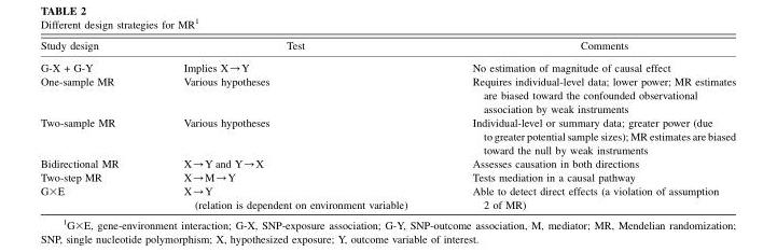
<table><thead><tr><td>Study design</td><td>Test</td><td>Comments</td></tr></thead><tbody><tr><td>G-X + G-Y</td><td>Implies X→Y</td><td>No estimation of magnitude of causal effect</td></tr><tr><td>One-sample MR</td><td>Various hypotheses</td><td>Requires individual-level data; lower power; MR estimates are biased toward the confounded observational association by weak instruments</td></tr><tr><td>Two-sample MR</td><td>Various hypotheses</td><td>Individual-level or summary data; greater power (due to greater potential sample sizes); MR estimates are biased toward the null by weak instruments</td></tr><tr><td>Bidirectional MR</td><td>X→Y and Y→X</td><td>Assesses causation in both directions</td></tr><tr><td>Two-step MR</td><td>X→M→Y</td><td>Tests mediation in a causal pathway</td></tr><tr><td>G×E</td><td>X→Y (relation is dependent on environment variable)</td><td>Able to detect direct effects (a violation of assumption 2 of MR)</td></tr></tbody></table>